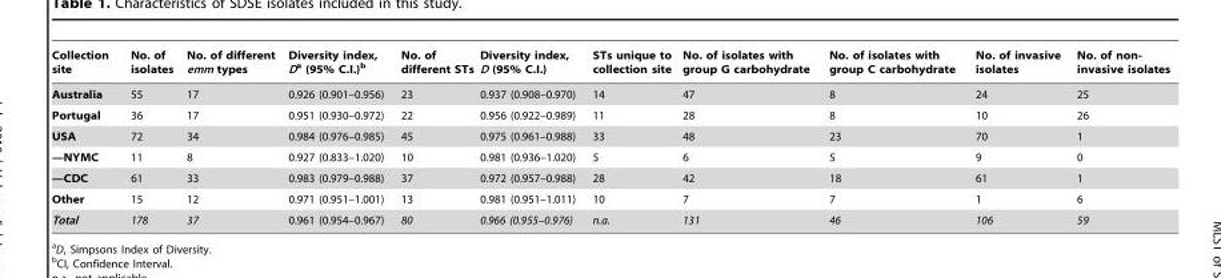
<table><thead><tr><td>Collection site</td><td>No. of isolates</td><td>No. of different emm types</td><td>Diversity index, Da (95% C.I.)<sup>b</sup></td><td>No. of different STs</td><td>Diversity index, D (95% C.I.)</td><td>STs unique to collection site</td><td>No. of isolates with group G carbohydrate</td><td>No. of isolates with group C carbohydrate</td><td>No. of invasive isolates</td><td>No. of non- invasive isolates</td></tr></thead><tbody><tr><td>Australia</td><td>55</td><td>17</td><td>0.926 (0.901–0.956)</td><td>23</td><td>0.937 (0.908–0.970)</td><td>14</td><td>47</td><td>8</td><td>24</td><td>25</td></tr><tr><td>Portugal</td><td>36</td><td>17</td><td>0.951 (0.930–0.972)</td><td>22</td><td>0.956 (0.922–0.989)</td><td>11</td><td>28</td><td>8</td><td>10</td><td>26</td></tr><tr><td>USA</td><td>72</td><td>34</td><td>0.984 (0.976–0.985)</td><td>45</td><td>0.975 (0.961–0.988)</td><td>33</td><td>48</td><td>23</td><td>70</td><td>1</td></tr><tr><td>—NYMC</td><td>11</td><td>8</td><td>0.927 (0.833–1.020)</td><td>10</td><td>0.981 (0.936–1.020)</td><td>5</td><td>6</td><td>5</td><td>9</td><td>0</td></tr><tr><td>—CDC</td><td>61</td><td>33</td><td>0.983 (0.979–0.988)</td><td>37</td><td>0.972 (0.957–0.988)</td><td>28</td><td>42</td><td>18</td><td>61</td><td>1</td></tr><tr><td>Other</td><td>15</td><td>12</td><td>0.971 (0.951–1.001)</td><td>13</td><td>0.981 (0.951–1.011)</td><td>10</td><td>7</td><td>7</td><td>1</td><td>6</td></tr><tr><td>Total</td><td>178</td><td>37</td><td>0.961 (0.954–0.967)</td><td>80</td><td>0.966 (0.955–0.976)</td><td>n.a.</td><td>131</td><td>46</td><td>106</td><td>59</td></tr></tbody></table>